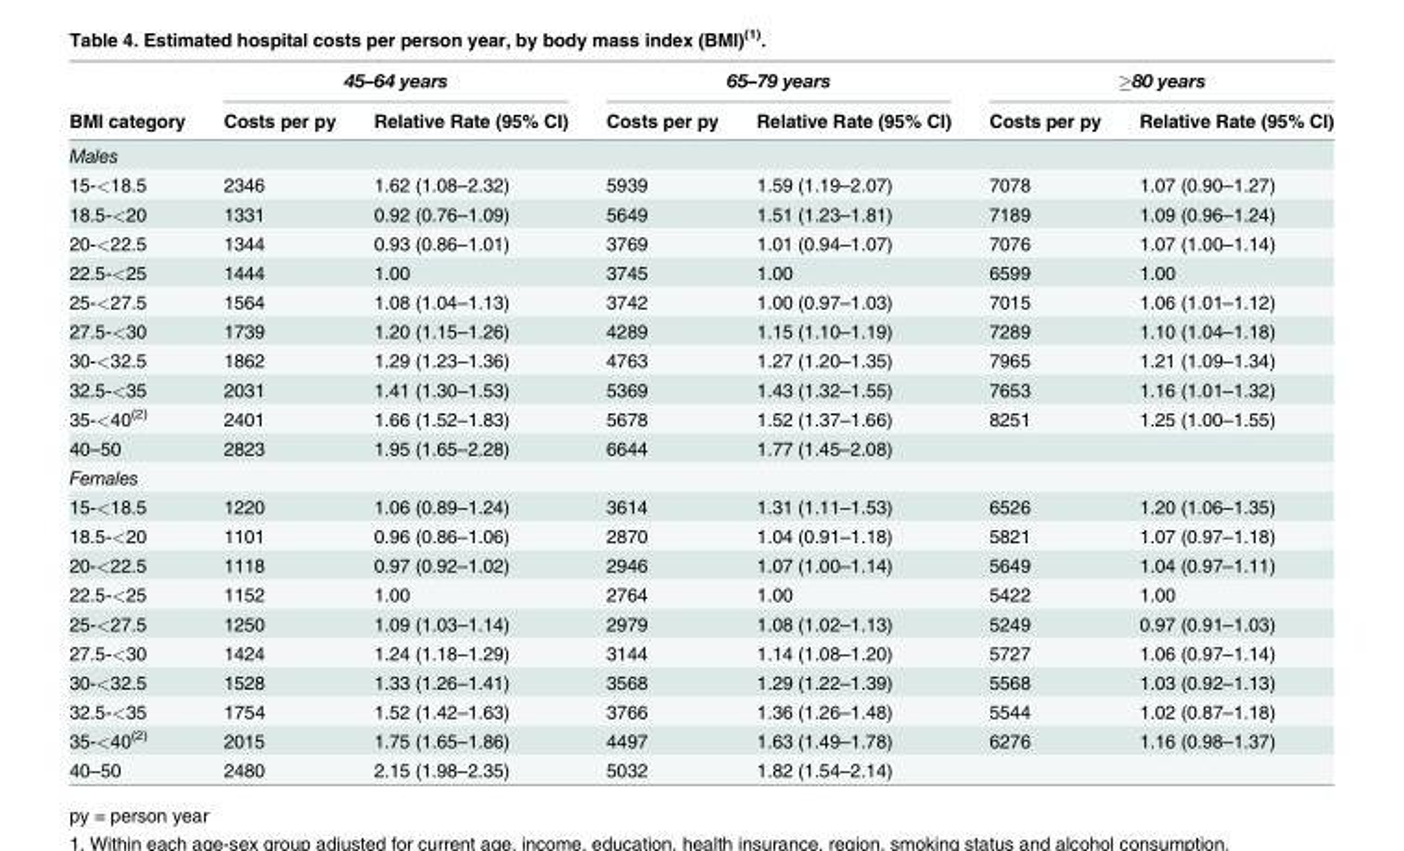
<table><thead><tr><td rowspan="2">BMI category</td><td colspan="2">45–64 years</td><td colspan="2">65–79 years</td><td colspan="2">≥80 years</td></tr><tr><td>Costs per py</td><td>Relative Rate (95% CI)</td><td>Costs per py</td><td>Relative Rate (95% CI)</td><td>Costs per py</td><td>Relative Rate (95% CI)</td></tr></thead><tbody><tr><td colspan="7">Males</td></tr><tr><td>15-&lt;18.5</td><td>2346</td><td>1.62 (1.08–2.32)</td><td>5939</td><td>1.59 (1.19–2.07)</td><td>7078</td><td>1.07 (0.90–1.27)</td></tr><tr><td>18.5-&lt;20</td><td>1331</td><td>0.92 (0.76–1.09)</td><td>5649</td><td>1.51 (1.23–1.81)</td><td>7189</td><td>1.09 (0.96–1.24)</td></tr><tr><td>20-&lt;22.5</td><td>1344</td><td>0.93 (0.86–1.01)</td><td>3769</td><td>1.01 (0.94–1.07)</td><td>7076</td><td>1.07 (1.00–1.14)</td></tr><tr><td>22.5-&lt;25</td><td>1444</td><td>1.00</td><td>3745</td><td>1.00</td><td>6599</td><td>1.00</td></tr><tr><td>25-&lt;27.5</td><td>1564</td><td>1.08 (1.04–1.13)</td><td>3742</td><td>1.00 (0.97–1.03)</td><td>7015</td><td>1.06 (1.01–1.12)</td></tr><tr><td>27.5-&lt;30</td><td>1739</td><td>1.20 (1.15–1.26)</td><td>4289</td><td>1.15 (1.10–1.19)</td><td>7289</td><td>1.10 (1.04–1.18)</td></tr><tr><td>30-&lt;32.5</td><td>1862</td><td>1.29 (1.23–1.36)</td><td>4763</td><td>1.27 (1.20–1.35)</td><td>7965</td><td>1.21 (1.09–1.34)</td></tr><tr><td>32.5-&lt;35</td><td>2031</td><td>1.41 (1.30–1.53)</td><td>5369</td><td>1.43 (1.32–1.55)</td><td>7653</td><td>1.16 (1.01–1.32)</td></tr><tr><td>35-&lt;40<sup>(2)</sup></td><td>2401</td><td>1.66 (1.52–1.83)</td><td>5678</td><td>1.52 (1.37–1.66)</td><td>8251</td><td>1.25 (1.00–1.55)</td></tr><tr><td>40–50</td><td>2823</td><td>1.95 (1.65–2.28)</td><td>6644</td><td>1.77 (1.45–2.08)</td><td></td><td></td></tr><tr><td colspan="7">Females</td></tr><tr><td>15-&lt;18.5</td><td>1220</td><td>1.06 (0.89–1.24)</td><td>3614</td><td>1.31 (1.11–1.53)</td><td>6526</td><td>1.20 (1.06–1.35)</td></tr><tr><td>18.5-&lt;20</td><td>1101</td><td>0.96 (0.86–1.06)</td><td>2870</td><td>1.04 (0.91–1.18)</td><td>5821</td><td>1.07 (0.97–1.18)</td></tr><tr><td>20-&lt;22.5</td><td>1118</td><td>0.97 (0.92–1.02)</td><td>2946</td><td>1.07 (1.00–1.14)</td><td>5649</td><td>1.04 (0.97–1.11)</td></tr><tr><td>22.5-&lt;25</td><td>1152</td><td>1.00</td><td>2764</td><td>1.00</td><td>5422</td><td>1.00</td></tr><tr><td>25-&lt;27.5</td><td>1250</td><td>1.09 (1.03–1.14)</td><td>2979</td><td>1.08 (1.02–1.13)</td><td>5249</td><td>0.97 (0.91–1.03)</td></tr><tr><td>27.5-&lt;30</td><td>1424</td><td>1.24 (1.18–1.29)</td><td>3144</td><td>1.14 (1.08–1.20)</td><td>5727</td><td>1.06 (0.97–1.14)</td></tr><tr><td>30-&lt;32.5</td><td>1528</td><td>1.33 (1.26–1.41)</td><td>3568</td><td>1.29 (1.22–1.39)</td><td>5568</td><td>1.03 (0.92–1.13)</td></tr><tr><td>32.5-&lt;35</td><td>1754</td><td>1.52 (1.42–1.63)</td><td>3766</td><td>1.36 (1.26–1.48)</td><td>5544</td><td>1.02 (0.87–1.18)</td></tr><tr><td>35-&lt;40<sup>(2)</sup></td><td>2015</td><td>1.75 (1.65–1.86)</td><td>4497</td><td>1.63 (1.49–1.78)</td><td>6276</td><td>1.16 (0.98–1.37)</td></tr><tr><td>40–50</td><td>2480</td><td>2.15 (1.98–2.35)</td><td>5032</td><td>1.82 (1.54–2.14)</td><td></td><td></td></tr></tbody></table>